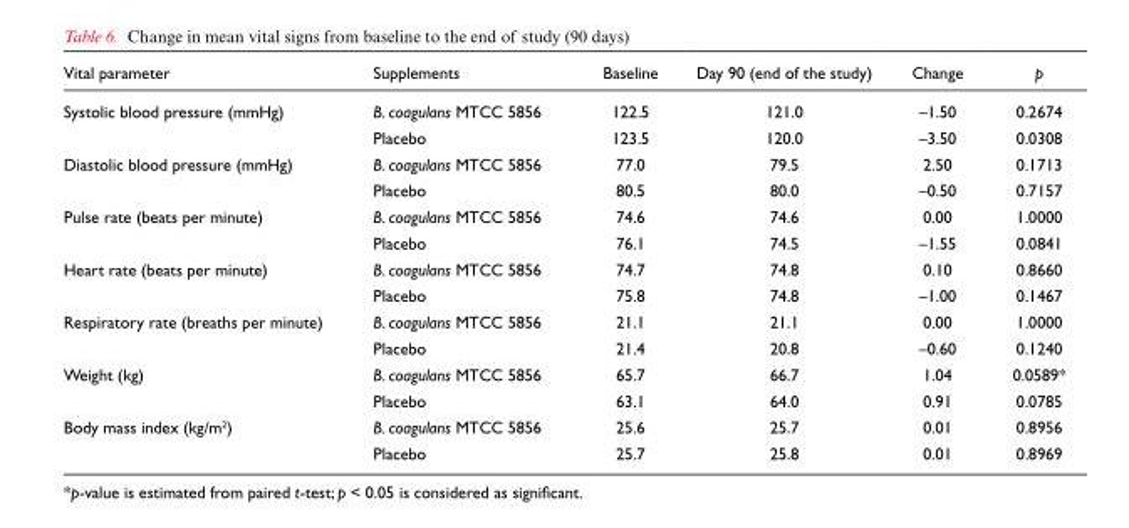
<table><thead><tr><td>Vital parameter</td><td>Supplements</td><td>Baseline</td><td>Day 90 (end of the study)</td><td>Change</td><td>p</td></tr></thead><tbody><tr><td rowspan="2">Systolic blood pressure (mmHg)</td><td>B. coagulans MTCC 5856</td><td>122.5</td><td>121.0</td><td>–1.50</td><td>0.2674</td></tr><tr><td>Placebo</td><td>123.5</td><td>120.0</td><td>–3.50</td><td>0.0308</td></tr><tr><td rowspan="2">Diastolic blood pressure (mmHg)</td><td>B. coagulans MTCC 5856</td><td>77.0</td><td>79.5</td><td>2.50</td><td>0.1713</td></tr><tr><td>Placebo</td><td>80.5</td><td>80.0</td><td>–0.50</td><td>0.7157</td></tr><tr><td rowspan="2">Pulse rate (beats per minute)</td><td>B. coagulans MTCC 5856</td><td>74.6</td><td>74.6</td><td>0.00</td><td>1.0000</td></tr><tr><td>Placebo</td><td>76.1</td><td>74.5</td><td>–1.55</td><td>0.0841</td></tr><tr><td rowspan="2">Heart rate (beats per minute)</td><td>B. coagulans MTCC 5856</td><td>74.7</td><td>74.8</td><td>0.10</td><td>0.8660</td></tr><tr><td>Placebo</td><td>75.8</td><td>74.8</td><td>–1.00</td><td>0.1467</td></tr><tr><td rowspan="2">Respiratory rate (breaths per minute)</td><td>B. coagulans MTCC 5856</td><td>21.1</td><td>21.1</td><td>0.00</td><td>1.0000</td></tr><tr><td>Placebo</td><td>21.4</td><td>20.8</td><td>–0.60</td><td>0.1240</td></tr><tr><td rowspan="2">Weight (kg)</td><td>B. coagulans MTCC 5856</td><td>65.7</td><td>66.7</td><td>1.04</td><td>0.0589*</td></tr><tr><td>Placebo</td><td>63.1</td><td>64.0</td><td>0.91</td><td>0.0785</td></tr><tr><td rowspan="2">Body mass index (kg/m<sup>2</sup>)</td><td>B. coagulans MTCC 5856</td><td>25.6</td><td>25.7</td><td>0.01</td><td>0.8956</td></tr><tr><td>Placebo</td><td>25.7</td><td>25.8</td><td>0.01</td><td>0.8969</td></tr></tbody></table>